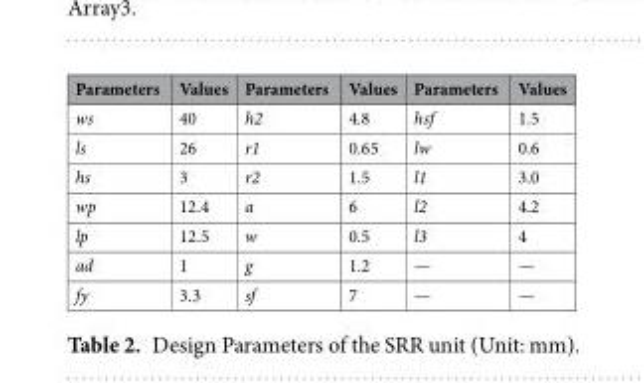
<table><thead><tr><td>Parameters</td><td>Values</td><td>Parameters</td><td>Values</td><td>Parameters</td><td>Values</td></tr></thead><tbody><tr><td>ws</td><td>40</td><td>h2</td><td>4.8</td><td>hsf</td><td>1.5</td></tr><tr><td>ls</td><td>26</td><td>r1</td><td>0.65</td><td>lw</td><td>0.6</td></tr><tr><td>hs</td><td>3</td><td>r2</td><td>1.5</td><td>l1</td><td>3.0</td></tr><tr><td>wp</td><td>12.4</td><td>a</td><td>6</td><td>l2</td><td>4.2</td></tr><tr><td>lp</td><td>12.5</td><td>w</td><td>0.5</td><td>l3</td><td>4</td></tr><tr><td>ad</td><td>1</td><td>g</td><td>1.2</td><td>—</td><td>—</td></tr><tr><td>fy</td><td>3.3</td><td>sf</td><td>7</td><td>—</td><td>—</td></tr></tbody></table>